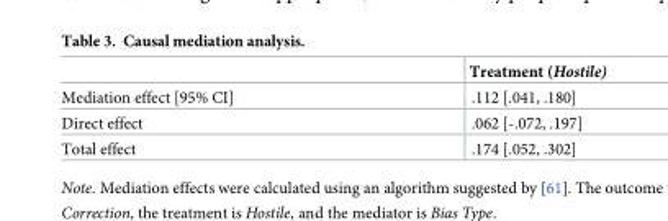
<table><thead><tr><td></td><td>Treatment (Hostile)</td></tr></thead><tbody><tr><td>Mediation effect [95% CI]</td><td>.112 [.041, .180]</td></tr><tr><td>Direct effect</td><td>.062 [-.072, .197]</td></tr><tr><td>Total effect</td><td>.174 [.052, .302]</td></tr></tbody></table>